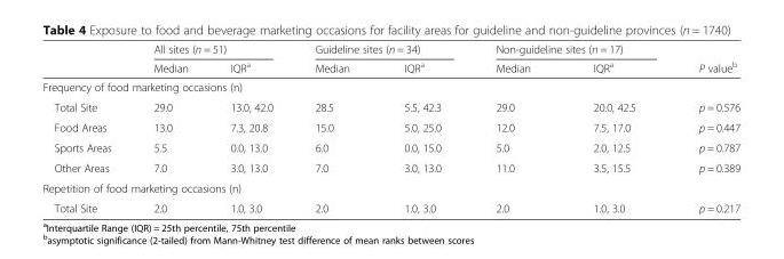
<table><thead><tr><td rowspan="2"></td><td colspan="2">All sites (n = 51)</td><td colspan="2">Guideline sites (n = 34)</td><td colspan="2">Non-guideline sites (n = 17)</td><td rowspan="2">P value<sup>b</sup></td></tr><tr><td>Median</td><td>IQR<sup>a</sup></td><td>Median</td><td>IQR<sup>a</sup></td><td>Median</td><td>IQR<sup>a</sup></td></tr></thead><tbody><tr><td colspan="8">Frequency of food marketing occasions (n)</td></tr><tr><td>Total Site</td><td>29.0</td><td>13.0, 42.0</td><td>28.5</td><td>5.5, 42.3</td><td>29.0</td><td>20.0, 42.5</td><td>p = 0.576</td></tr><tr><td>Food Areas</td><td>13.0</td><td>7.3, 20.8</td><td>15.0</td><td>5.0, 25.0</td><td>12.0</td><td>7.5, 17.0</td><td>p = 0.447</td></tr><tr><td>Sports Areas</td><td>5.5</td><td>0.0, 13.0</td><td>6.0</td><td>0.0, 15.0</td><td>5.0</td><td>2.0, 12.5</td><td>p = 0.787</td></tr><tr><td>Other Areas</td><td>7.0</td><td>3.0, 13.0</td><td>7.0</td><td>3.0, 13.0</td><td>11.0</td><td>3.5, 15.5</td><td>p = 0.389</td></tr><tr><td colspan="8">Repetition of food marketing occasions (n)</td></tr><tr><td>Total Site</td><td>2.0</td><td>1.0, 3.0</td><td>2.0</td><td>1.0, 3.0</td><td>2.0</td><td>1.0, 3.0</td><td>p = 0.217</td></tr></tbody></table>